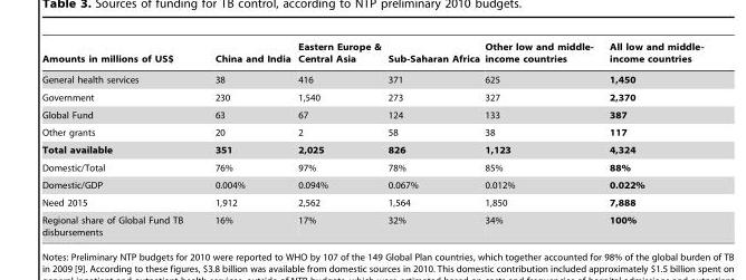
<table><thead><tr><td>Amounts in millions of US$</td><td>China and India</td><td>Eastern Europe &amp; Central Asia</td><td>Sub-Saharan Africa</td><td>Other low and middle- income countries</td><td>All low and middle- income countries</td></tr></thead><tbody><tr><td>General health services</td><td>38</td><td>416</td><td>371</td><td>625</td><td>1,450</td></tr><tr><td>Government</td><td>230</td><td>1,540</td><td>273</td><td>327</td><td>2,370</td></tr><tr><td>Global Fund</td><td>63</td><td>67</td><td>124</td><td>133</td><td>387</td></tr><tr><td>Other grants</td><td>20</td><td>2</td><td>58</td><td>38</td><td>117</td></tr><tr><td>Total available</td><td>351</td><td>2,025</td><td>826</td><td>1,123</td><td>4,324</td></tr><tr><td>Domestic/Total</td><td>76%</td><td>97%</td><td>78%</td><td>85%</td><td>88%</td></tr><tr><td>Domestic/GDP</td><td>0.004%</td><td>0.094%</td><td>0.067%</td><td>0.012%</td><td>0.022%</td></tr><tr><td>Need 2015</td><td>1,912</td><td>2,562</td><td>1,564</td><td>1,850</td><td>7,888</td></tr><tr><td>Regional share of Global Fund TB disbursements</td><td>16%</td><td>17%</td><td>32%</td><td>34%</td><td>100%</td></tr></tbody></table>